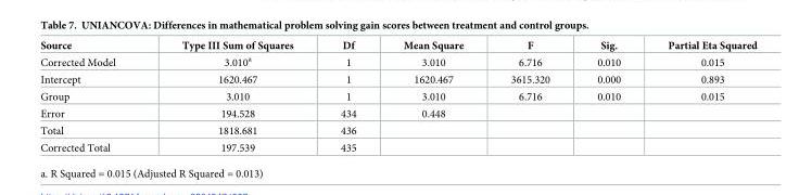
<table><thead><tr><td>Source</td><td>Type III Sum of Squares</td><td>Df</td><td>Mean Square</td><td>F</td><td>Sig.</td><td>Partial Eta Squared</td></tr></thead><tbody><tr><td>Corrected Model</td><td>3.010<sup>a</sup></td><td>1</td><td>3.010</td><td>6.716</td><td>0.010</td><td>0.015</td></tr><tr><td>Intercept</td><td>1620.467</td><td>1</td><td>1620.467</td><td>3615.320</td><td>0.000</td><td>0.893</td></tr><tr><td>Group</td><td>3.010</td><td>1</td><td>3.010</td><td>6.716</td><td>0.010</td><td>0.015</td></tr><tr><td>Error</td><td>194.528</td><td>434</td><td>0.448</td><td></td><td></td><td></td></tr><tr><td>Total</td><td>1818.681</td><td>436</td><td></td><td></td><td></td><td></td></tr><tr><td>Corrected Total</td><td>197.539</td><td>435</td><td></td><td></td><td></td><td></td></tr></tbody></table>